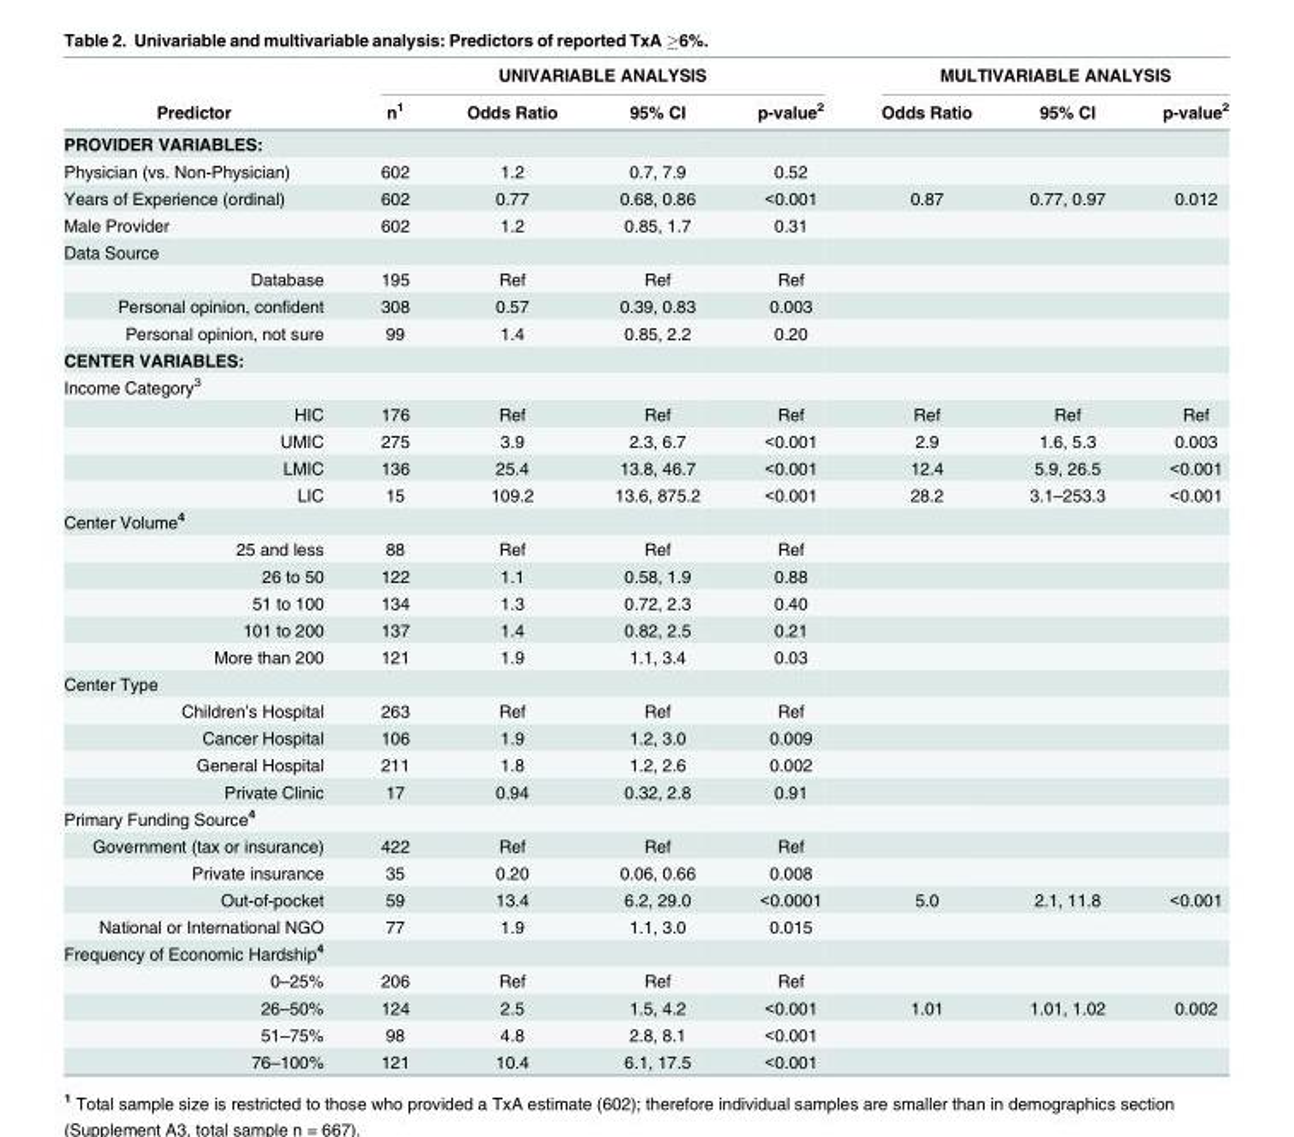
<table><thead><tr><td rowspan="2">Predictor</td><td colspan="4">UNIVARIABLE ANALYSIS</td><td colspan="3">MULTIVARIABLE ANALYSIS</td></tr><tr><td>n<sup>1</sup></td><td>Odds Ratio</td><td>95% CI</td><td>p-value<sup>2</sup></td><td>Odds Ratio</td><td>95% CI</td><td>p-value<sup>2</sup></td></tr></thead><tbody><tr><td colspan="8">PROVIDER VARIABLES:</td></tr><tr><td>Physician (vs. Non-Physician)</td><td>602</td><td>1.2</td><td>0.7, 7.9</td><td>0.52</td><td></td><td></td><td></td></tr><tr><td>Years of Experience (ordinal)</td><td>602</td><td>0.77</td><td>0.68, 0.86</td><td>&lt;0.001</td><td>0.87</td><td>0.77, 0.97</td><td>0.012</td></tr><tr><td>Male Provider</td><td>602</td><td>1.2</td><td>0.85, 1.7</td><td>0.31</td><td></td><td></td><td></td></tr><tr><td colspan="8">Data Source</td></tr><tr><td>Database</td><td>195</td><td>Ref</td><td>Ref</td><td>Ref</td><td></td><td></td><td></td></tr><tr><td>Personal opinion, confident</td><td>308</td><td>0.57</td><td>0.39, 0.83</td><td>0.003</td><td></td><td></td><td></td></tr><tr><td>Personal opinion, not sure</td><td>99</td><td>1.4</td><td>0.85, 2.2</td><td>0.20</td><td></td><td></td><td></td></tr><tr><td colspan="8">CENTER VARIABLES:</td></tr><tr><td colspan="8">Income Category<sup>3</sup></td></tr><tr><td>HIC</td><td>176</td><td>Ref</td><td>Ref</td><td>Ref</td><td>Ref</td><td>Ref</td><td>Ref</td></tr><tr><td>UMIC</td><td>275</td><td>3.9</td><td>2.3, 6.7</td><td>&lt;0.001</td><td>2.9</td><td>1.6, 5.3</td><td>0.003</td></tr><tr><td>LMIC</td><td>136</td><td>25.4</td><td>13.8, 46.7</td><td>&lt;0.001</td><td>12.4</td><td>5.9, 26.5</td><td>&lt;0.001</td></tr><tr><td>LIC</td><td>15</td><td>109.2</td><td>13.6, 875.2</td><td>&lt;0.001</td><td>28.2</td><td>3.1–253.3</td><td>&lt;0.001</td></tr><tr><td colspan="8">Center Volume<sup>4</sup></td></tr><tr><td>25 and less</td><td>88</td><td>Ref</td><td>Ref</td><td>Ref</td><td></td><td></td><td></td></tr><tr><td>26 to 50</td><td>122</td><td>1.1</td><td>0.58, 1.9</td><td>0.88</td><td></td><td></td><td></td></tr><tr><td>51 to 100</td><td>134</td><td>1.3</td><td>0.72, 2.3</td><td>0.40</td><td></td><td></td><td></td></tr><tr><td>101 to 200</td><td>137</td><td>1.4</td><td>0.82, 2.5</td><td>0.21</td><td></td><td></td><td></td></tr><tr><td>More than 200</td><td>121</td><td>1.9</td><td>1.1, 3.4</td><td>0.03</td><td></td><td></td><td></td></tr><tr><td colspan="8">Center Type</td></tr><tr><td>Children’s Hospital</td><td>263</td><td>Ref</td><td>Ref</td><td>Ref</td><td></td><td></td><td></td></tr><tr><td>Cancer Hospital</td><td>106</td><td>1.9</td><td>1.2, 3.0</td><td>0.009</td><td></td><td></td><td></td></tr><tr><td>General Hospital</td><td>211</td><td>1.8</td><td>1.2, 2.6</td><td>0.002</td><td></td><td></td><td></td></tr><tr><td>Private Clinic</td><td>17</td><td>0.94</td><td>0.32, 2.8</td><td>0.91</td><td></td><td></td><td></td></tr><tr><td colspan="8">Primary Funding Source<sup>4</sup></td></tr><tr><td>Government (tax or insurance)</td><td>422</td><td>Ref</td><td>Ref</td><td>Ref</td><td></td><td></td><td></td></tr><tr><td>Private insurance</td><td>35</td><td>0.20</td><td>0.06, 0.66</td><td>0.008</td><td></td><td></td><td></td></tr><tr><td>Out-of-pocket</td><td>59</td><td>13.4</td><td>6.2, 29.0</td><td>&lt;0.0001</td><td>5.0</td><td>2.1, 11.8</td><td>&lt;0.001</td></tr><tr><td>National or International NGO</td><td>77</td><td>1.9</td><td>1.1, 3.0</td><td>0.015</td><td></td><td></td><td></td></tr><tr><td colspan="8">Frequency of Economic Hardship<sup>4</sup></td></tr><tr><td>0–25%</td><td>206</td><td>Ref</td><td>Ref</td><td>Ref</td><td></td><td></td><td></td></tr><tr><td>26–50%</td><td>124</td><td>2.5</td><td>1.5, 4.2</td><td>&lt;0.001</td><td>1.01</td><td>1.01, 1.02</td><td>0.002</td></tr><tr><td>51–75%</td><td>98</td><td>4.8</td><td>2.8, 8.1</td><td>&lt;0.001</td><td></td><td></td><td></td></tr><tr><td>76–100%</td><td>121</td><td>10.4</td><td>6.1, 17.5</td><td>&lt;0.001</td><td></td><td></td><td></td></tr></tbody></table>